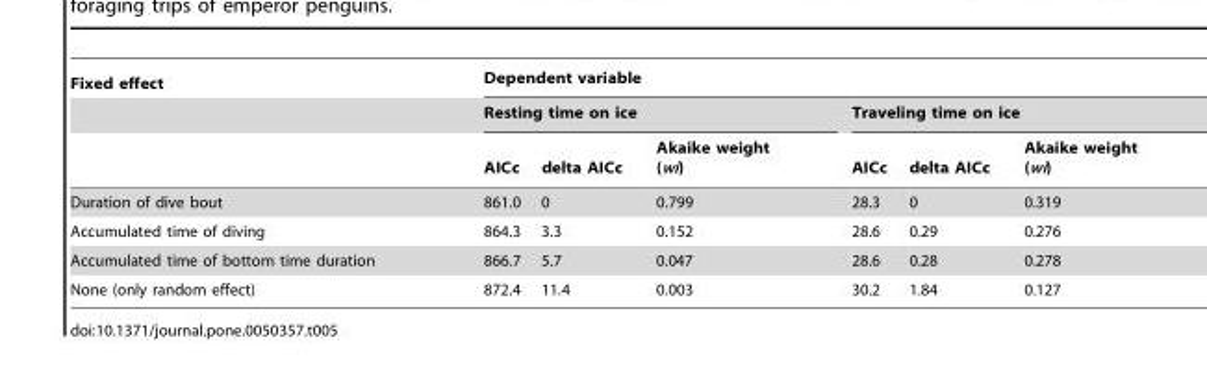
<table><thead><tr><td rowspan="3">Fixed effect</td><td colspan="6">Dependent variable</td></tr><tr><td colspan="3">Resting time on ice</td><td colspan="3">Traveling time on ice</td></tr><tr><td>AICc</td><td>delta AICc</td><td>Akaike weight (wi)</td><td>AICc</td><td>delta AICc</td><td>Akaike weight (wi)</td></tr></thead><tbody><tr><td>Duration of dive bout</td><td>861.0</td><td>0</td><td>0.799</td><td>28.3</td><td>0</td><td>0.319</td></tr><tr><td>Accumulated time of diving</td><td>864.3</td><td>3.3</td><td>0.152</td><td>28.6</td><td>0.29</td><td>0.276</td></tr><tr><td>Accumulated time of bottom time duration</td><td>866.7</td><td>5.7</td><td>0.047</td><td>28.6</td><td>0.28</td><td>0.278</td></tr><tr><td>None (only random effect)</td><td>872.4</td><td>11.4</td><td>0.003</td><td>30.2</td><td>1.84</td><td>0.127</td></tr></tbody></table>